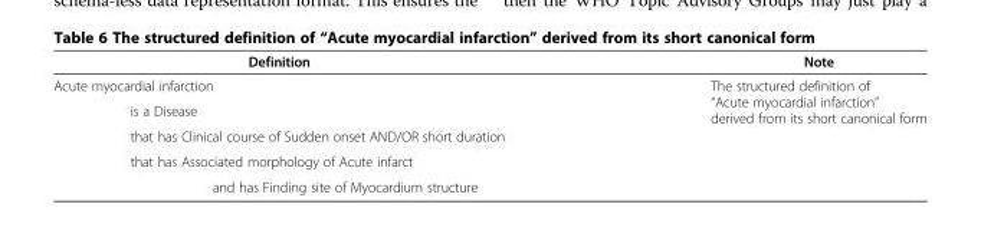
<table><thead><tr><td>Definition</td><td>Note</td></tr></thead><tbody><tr><td>Acute myocardial infarction</td><td rowspan="5">The structured definition of “Acute myocardial infarction” derived from its short canonical form</td></tr><tr><td>is a Disease</td></tr><tr><td>that has Clinical course of Sudden onset AND/OR short duration</td></tr><tr><td>that has Associated morphology of Acute infarct</td></tr><tr><td>and has Finding site of Myocardium structure</td></tr></tbody></table>